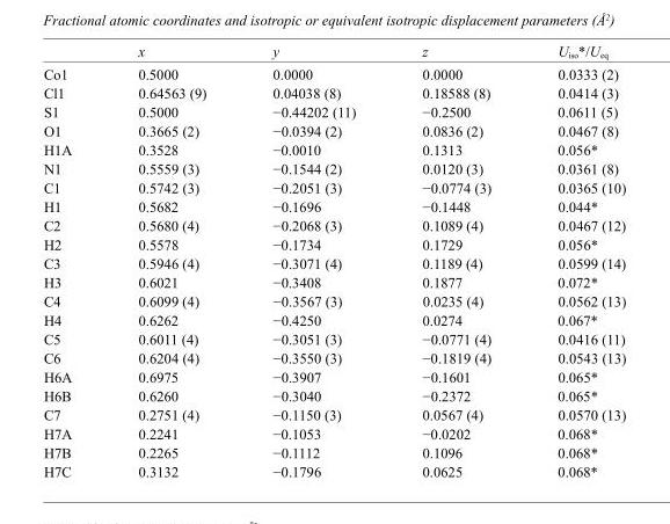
<table><thead><tr><td></td><td>x</td><td>y</td><td>z</td><td>U<sub>iso</sub>*/U<sub>eq</sub></td></tr></thead><tbody><tr><td>Co1</td><td>0.5000</td><td>0.0000</td><td>0.0000</td><td>0.0333 (2)</td></tr><tr><td>Cl1</td><td>0.64563 (9)</td><td>0.04038 (8)</td><td>0.18588 (8)</td><td>0.0414 (3)</td></tr><tr><td>S1</td><td>0.5000</td><td>−0.44202 (11)</td><td>−0.2500</td><td>0.0611 (5)</td></tr><tr><td>O1</td><td>0.3665 (2)</td><td>−0.0394 (2)</td><td>0.0836 (2)</td><td>0.0467 (8)</td></tr><tr><td>H1A</td><td>0.3528</td><td>−0.0010</td><td>0.1313</td><td>0.056*</td></tr><tr><td>N1</td><td>0.5559 (3)</td><td>−0.1544 (2)</td><td>0.0120 (3)</td><td>0.0361 (8)</td></tr><tr><td>C1</td><td>0.5742 (3)</td><td>−0.2051 (3)</td><td>−0.0774 (3)</td><td>0.0365 (10)</td></tr><tr><td>H1</td><td>0.5682</td><td>−0.1696</td><td>−0.1448</td><td>0.044*</td></tr><tr><td>C2</td><td>0.5680 (4)</td><td>−0.2068 (3)</td><td>0.1089 (4)</td><td>0.0467 (12)</td></tr><tr><td>H2</td><td>0.5578</td><td>−0.1734</td><td>0.1729</td><td>0.056*</td></tr><tr><td>C3</td><td>0.5946 (4)</td><td>−0.3071 (4)</td><td>0.1189 (4)</td><td>0.0599 (14)</td></tr><tr><td>H3</td><td>0.6021</td><td>−0.3408</td><td>0.1877</td><td>0.072*</td></tr><tr><td>C4</td><td>0.6099 (4)</td><td>−0.3567 (3)</td><td>0.0235 (4)</td><td>0.0562 (13)</td></tr><tr><td>H4</td><td>0.6262</td><td>−0.4250</td><td>0.0274</td><td>0.067*</td></tr><tr><td>C5</td><td>0.6011 (4)</td><td>−0.3051 (3)</td><td>−0.0771 (4)</td><td>0.0416 (11)</td></tr><tr><td>C6</td><td>0.6204 (4)</td><td>−0.3550 (3)</td><td>−0.1819 (4)</td><td>0.0543 (13)</td></tr><tr><td>H6A</td><td>0.6975</td><td>−0.3907</td><td>−0.1601</td><td>0.065*</td></tr><tr><td>H6B</td><td>0.6260</td><td>−0.3040</td><td>−0.2372</td><td>0.065*</td></tr><tr><td>C7</td><td>0.2751 (4)</td><td>−0.1150 (3)</td><td>0.0567 (4)</td><td>0.0570 (13)</td></tr><tr><td>H7A</td><td>0.2241</td><td>−0.1053</td><td>−0.0202</td><td>0.068*</td></tr><tr><td>H7B</td><td>0.2265</td><td>−0.1112</td><td>0.1096</td><td>0.068*</td></tr><tr><td>H7C</td><td>0.3132</td><td>−0.1796</td><td>0.0625</td><td>0.068*</td></tr></tbody></table>